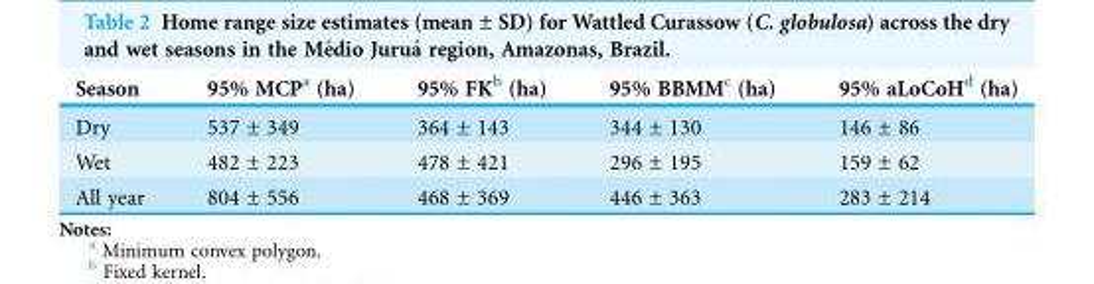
<table><thead><tr><td>Season</td><td>95% MCP<sup>a</sup> (ha)</td><td>95% FK<sup>b</sup> (ha)</td><td>95% BBMM<sup>c</sup> (ha)</td><td>95% aLoCoH<sup>d</sup> (ha)</td></tr></thead><tbody><tr><td>Dry</td><td>537 ± 349</td><td>364 ± 143</td><td>344 ± 130</td><td>146 ± 86</td></tr><tr><td>Wet</td><td>482 ± 223</td><td>478 ± 421</td><td>296 ± 195</td><td>159 ± 62</td></tr><tr><td>All year</td><td>804 ± 556</td><td>468 ± 369</td><td>446 ± 363</td><td>283 ± 214</td></tr></tbody></table>